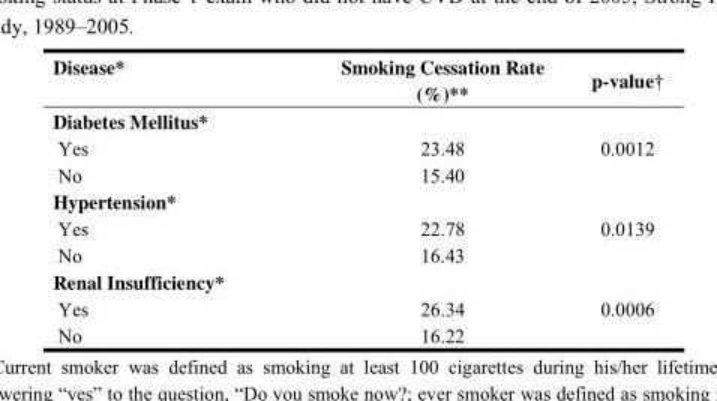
<table><thead><tr><td>Disease*</td><td>Smoking Cessation Rate (%)**</td><td>p-value†</td></tr></thead><tbody><tr><td colspan="3">Diabetes Mellitus*</td></tr><tr><td>Yes</td><td>23.48</td><td>0.0012</td></tr><tr><td>No</td><td>15.40</td><td></td></tr><tr><td colspan="3">Hypertension*</td></tr><tr><td>Yes</td><td>22.78</td><td>0.0139</td></tr><tr><td>No</td><td>16.43</td><td></td></tr><tr><td colspan="3">Renal Insufficiency*</td></tr><tr><td>Yes</td><td>26.34</td><td>0.0006</td></tr><tr><td>No</td><td>16.22</td><td></td></tr></tbody></table>